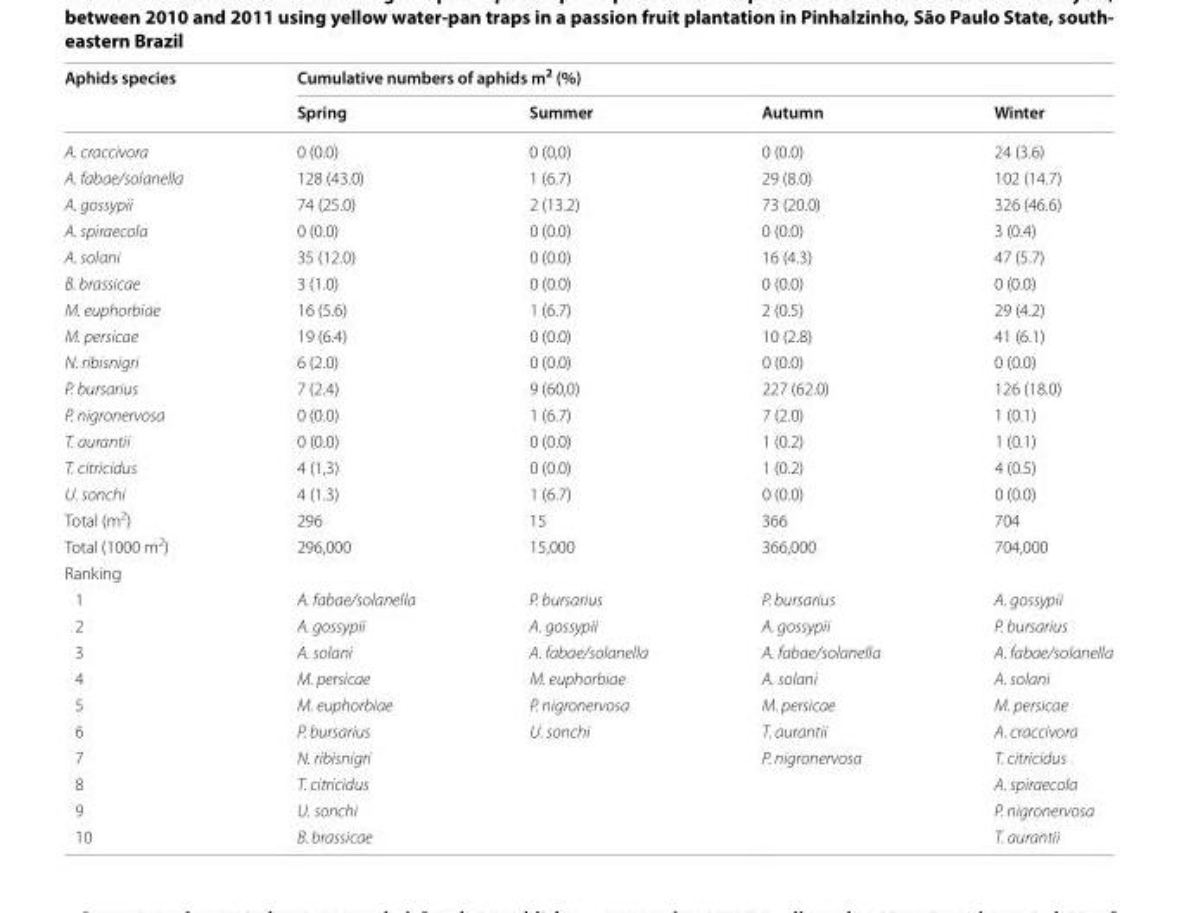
<table><thead><tr><td rowspan="2">Aphids species</td><td colspan="4">Cumulative numbers of aphids m<sup>2</sup> (%)</td></tr><tr><td>Spring</td><td>Summer</td><td>Autumn</td><td>Winter</td></tr></thead><tbody><tr><td>A. craccivora</td><td>0 (0.0)</td><td>0 (0,0)</td><td>0 (0.0)</td><td>24 (3.6)</td></tr><tr><td>A. fabae/solanella</td><td>128 (43.0)</td><td>1 (6.7)</td><td>29 (8.0)</td><td>102 (14.7)</td></tr><tr><td>A. gossypii</td><td>74 (25.0)</td><td>2 (13.2)</td><td>73 (20.0)</td><td>326 (46.6)</td></tr><tr><td>A. spiraecola</td><td>0 (0.0)</td><td>0 (0.0)</td><td>0 (0.0)</td><td>3 (0.4)</td></tr><tr><td>A. solani</td><td>35 (12.0)</td><td>0 (0.0)</td><td>16 (4.3)</td><td>47 (5.7)</td></tr><tr><td>B. brassicae</td><td>3 (1.0)</td><td>0 (0.0)</td><td>0 (0.0)</td><td>0 (0.0)</td></tr><tr><td>M. euphorbiae</td><td>16 (5.6)</td><td>1 (6.7)</td><td>2 (0.5)</td><td>29 (4.2)</td></tr><tr><td>M. persicae</td><td>19 (6.4)</td><td>0 (0.0)</td><td>10 (2.8)</td><td>41 (6.1)</td></tr><tr><td>N. ribisnigri</td><td>6 (2.0)</td><td>0 (0.0)</td><td>0 (0.0)</td><td>0 (0.0)</td></tr><tr><td>P. bursarius</td><td>7 (2.4)</td><td>9 (60,0)</td><td>227 (62.0)</td><td>126 (18.0)</td></tr><tr><td>P. nigronervosa</td><td>0 (0.0)</td><td>1 (6.7)</td><td>7 (2.0)</td><td>1 (0.1)</td></tr><tr><td>T. aurantii</td><td>0 (0.0)</td><td>0 (0.0)</td><td>1 (0.2)</td><td>1 (0.1)</td></tr><tr><td>T. citricidus</td><td>4 (1,3)</td><td>0 (0.0)</td><td>1 (0.2)</td><td>4 (0.5)</td></tr><tr><td>U. sonchi</td><td>4 (1.3)</td><td>1 (6.7)</td><td>0 (0.0)</td><td>0 (0.0)</td></tr><tr><td>Total (m<sup>2</sup>)</td><td>296</td><td>15</td><td>366</td><td>704</td></tr><tr><td>Total (1000 m<sup>2</sup>)</td><td>296,000</td><td>15,000</td><td>366,000</td><td>704,000</td></tr><tr><td colspan="5">Ranking</td></tr><tr><td>1</td><td>A. fabae/solanella</td><td>P. bursarius</td><td>P. bursarius</td><td>A. gossypii</td></tr><tr><td>2</td><td>A. gossypii</td><td>A. gossypii</td><td>A. gossypii</td><td>P. bursarius</td></tr><tr><td>3</td><td>A. solani</td><td>A. fabae/solanella</td><td>A. fabae/solanella</td><td>A. fabae/solanella</td></tr><tr><td>4</td><td>M. persicae</td><td>M. euphorbiae</td><td>A. solani</td><td>A. solani</td></tr><tr><td>5</td><td>M. euphorbiae</td><td>P. nigronervosa</td><td>M. persicae</td><td>M. persicae</td></tr><tr><td>6</td><td>P. bursarius</td><td>U. sonchi</td><td>T. aurantii</td><td>A. craccivora</td></tr><tr><td>7</td><td>N. ribisnigri</td><td></td><td>P. nigronervosa</td><td>T. citricidus</td></tr><tr><td>8</td><td>T. citricidus</td><td></td><td></td><td>A. spiraecola</td></tr><tr><td>9</td><td>U. sonchi</td><td></td><td></td><td>P. nigronervosa</td></tr><tr><td>10</td><td>B. brassicae</td><td></td><td></td><td>T. aurantii</td></tr></tbody></table>